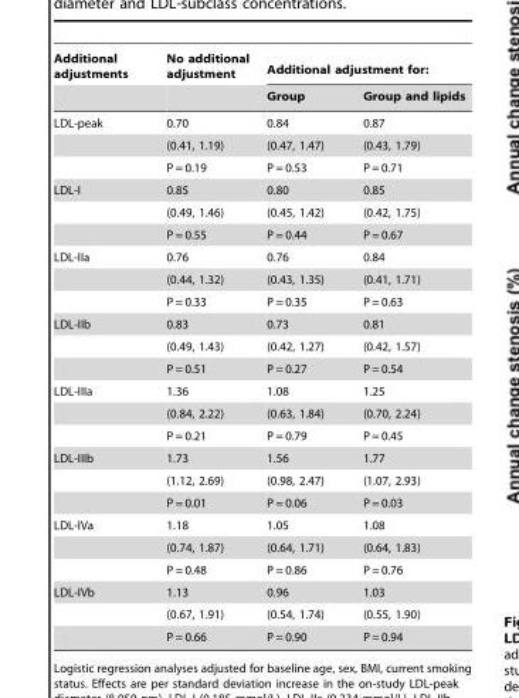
<table><thead><tr><td rowspan="2">Additional adjustments</td><td rowspan="2">No additional adjustment</td><td colspan="2">Additional adjustment for:</td></tr><tr><td>Group</td><td>Group and lipids</td></tr></thead><tbody><tr><td rowspan="3">LDL-peak</td><td>0.70</td><td>0.84</td><td>0.87</td></tr><tr><td>(0.41, 1.19)</td><td>(0.47, 1.47)</td><td>(0.43, 1.79)</td></tr><tr><td>P = 0.19</td><td>P = 0.53</td><td>P = 0.71</td></tr><tr><td rowspan="3">LDL-I</td><td>0.85</td><td>0.80</td><td>0.85</td></tr><tr><td>(0.49, 1.46)</td><td>(0.45, 1.42)</td><td>(0.42, 1.75)</td></tr><tr><td>P = 0.55</td><td>P = 0.44</td><td>P = 0.67</td></tr><tr><td rowspan="3">LDL-IIa</td><td>0.76</td><td>0.76</td><td>0.84</td></tr><tr><td>(0.44, 1.32)</td><td>(0.43, 1.35)</td><td>(0.41, 1.71)</td></tr><tr><td>P = 0.33</td><td>P = 0.35</td><td>P = 0.63</td></tr><tr><td rowspan="3">LDL-IIb</td><td>0.83</td><td>0.73</td><td>0.81</td></tr><tr><td>(0.49, 1.43)</td><td>(0.42, 1.27)</td><td>(0.42, 1.57)</td></tr><tr><td>P = 0.51</td><td>P = 0.27</td><td>P = 0.54</td></tr><tr><td rowspan="3">LDL-IIIa</td><td>1.36</td><td>1.08</td><td>1.25</td></tr><tr><td>(0.84, 2.22)</td><td>(0.63, 1.84)</td><td>(0.70, 2.24)</td></tr><tr><td>P = 0.21</td><td>P = 0.79</td><td>P = 0.45</td></tr><tr><td rowspan="3">LDL-IIIb</td><td>1.73</td><td>1.56</td><td>1.77</td></tr><tr><td>(1.12, 2.69)</td><td>(0.98, 2.47)</td><td>(1.07, 2.93)</td></tr><tr><td>P = 0.01</td><td>P = 0.06</td><td>P = 0.03</td></tr><tr><td rowspan="3">LDL-IVa</td><td>1.18</td><td>1.05</td><td>1.08</td></tr><tr><td>(0.74, 1.87)</td><td>(0.64, 1.71)</td><td>(0.64, 1.83)</td></tr><tr><td>P = 0.48</td><td>P = 0.86</td><td>P = 0.76</td></tr><tr><td rowspan="3">LDL-IVb</td><td>1.13</td><td>0.96</td><td>1.03</td></tr><tr><td>(0.67, 1.91)</td><td>(0.54, 1.74)</td><td>(0.55, 1.90)</td></tr><tr><td>P = 0.66</td><td>P = 0.90</td><td>P = 0.94</td></tr></tbody></table>